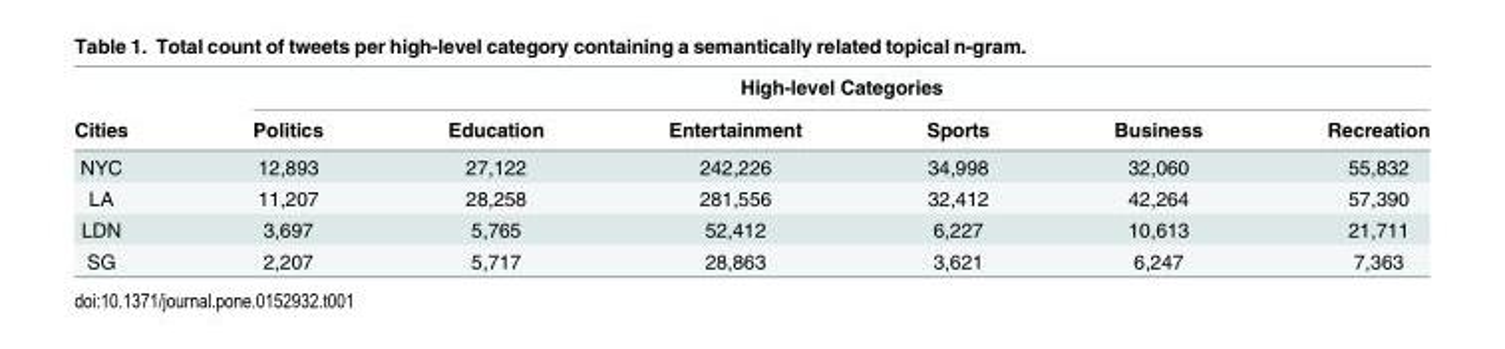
<table><thead><tr><td rowspan="2">Cities</td><td colspan="6">High-level Categories</td></tr><tr><td>Politics</td><td>Education</td><td>Entertainment</td><td>Sports</td><td>Business</td><td>Recreation</td></tr></thead><tbody><tr><td>NYC</td><td>12,893</td><td>27,122</td><td>242,226</td><td>34,998</td><td>32,060</td><td>55,832</td></tr><tr><td>LA</td><td>11,207</td><td>28,258</td><td>281,556</td><td>32,412</td><td>42,264</td><td>57,390</td></tr><tr><td>LDN</td><td>3,697</td><td>5,765</td><td>52,412</td><td>6,227</td><td>10,613</td><td>21,711</td></tr><tr><td>SG</td><td>2,207</td><td>5,717</td><td>28,863</td><td>3,621</td><td>6,247</td><td>7,363</td></tr></tbody></table>